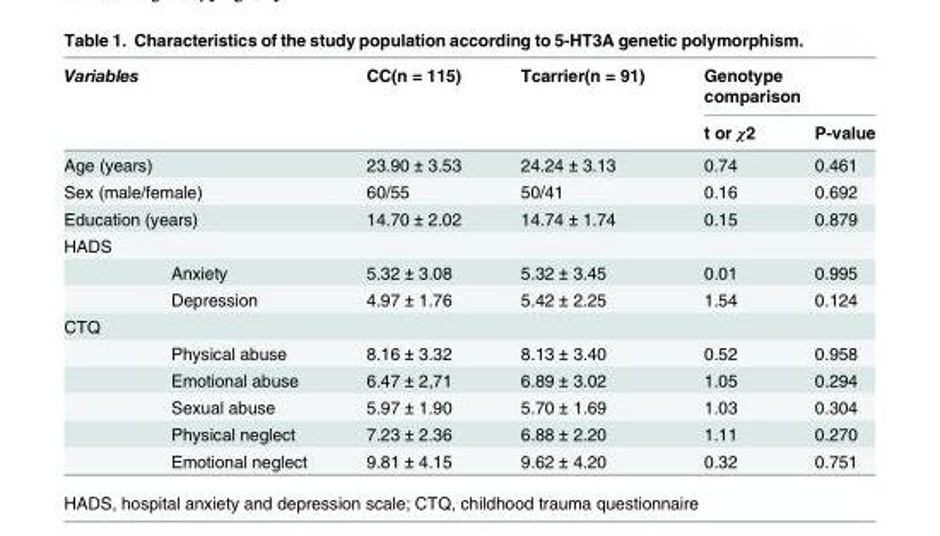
<table><thead><tr><td rowspan="2" colspan="2">Variables</td><td rowspan="2">CC(n = 115)</td><td rowspan="2">Tcarrier(n = 91)</td><td colspan="2">Genotype comparison</td></tr><tr><td>t or χ2</td><td>P-value</td></tr></thead><tbody><tr><td colspan="2">Age (years)</td><td>23.90 ± 3.53</td><td>24.24 ± 3.13</td><td>0.74</td><td>0.461</td></tr><tr><td colspan="2">Sex (male/female)</td><td>60/55</td><td>50/41</td><td>0.16</td><td>0.692</td></tr><tr><td colspan="2">Education (years)</td><td>14.70 ± 2.02</td><td>14.74 ± 1.74</td><td>0.15</td><td>0.879</td></tr><tr><td colspan="6">HADS</td></tr><tr><td></td><td>Anxiety</td><td>5.32 ± 3.08</td><td>5.32 ± 3.45</td><td>0.01</td><td>0.995</td></tr><tr><td></td><td>Depression</td><td>4.97 ± 1.76</td><td>5.42 ± 2.25</td><td>1.54</td><td>0.124</td></tr><tr><td colspan="6">CTQ</td></tr><tr><td></td><td>Physical abuse</td><td>8.16 ± 3.32</td><td>8.13 ± 3.40</td><td>0.52</td><td>0.958</td></tr><tr><td></td><td>Emotional abuse</td><td>6.47 ± 2,71</td><td>6.89 ± 3.02</td><td>1.05</td><td>0.294</td></tr><tr><td></td><td>Sexual abuse</td><td>5.97 ± 1.90</td><td>5.70 ± 1.69</td><td>1.03</td><td>0.304</td></tr><tr><td></td><td>Physical neglect</td><td>7.23 ± 2.36</td><td>6.88 ± 2.20</td><td>1.11</td><td>0.270</td></tr><tr><td></td><td>Emotional neglect</td><td>9.81 ± 4.15</td><td>9.62 ± 4.20</td><td>0.32</td><td>0.751</td></tr></tbody></table>